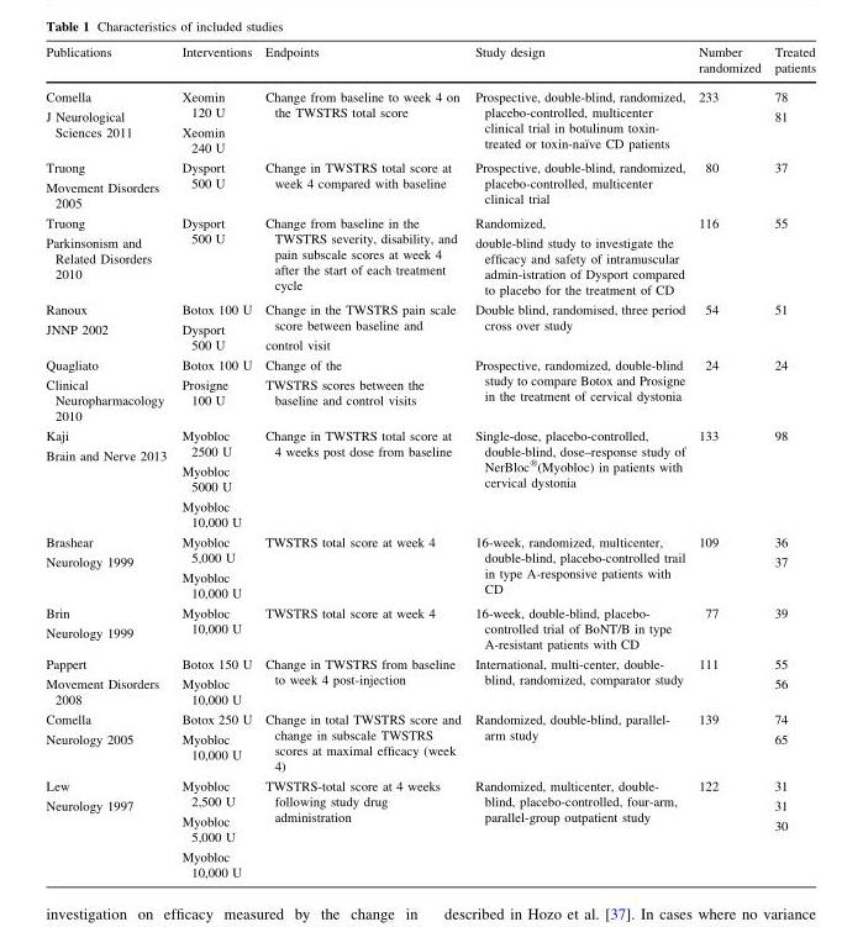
<table><thead><tr><td>Publications</td><td>Interventions</td><td>Endpoints</td><td>Study design</td><td>Number randomized</td><td>Treated patients</td></tr></thead><tbody><tr><td>Comella J Neurological Sciences 2011</td><td>Xeomin 120 U Xeomin 240 U</td><td>Change from baseline to week 4 on the TWSTRS total score</td><td>Prospective, double-blind, randomized, placebo-controlled, multicenter clinical trial in botulinum toxin- treated or toxin-naı¨ve CD patients</td><td>233</td><td>78 81</td></tr><tr><td>Truong Movement Disorders 2005</td><td>Dysport 500 U</td><td>Change in TWSTRS total score at week 4 compared with baseline</td><td>Prospective, double-blind, randomized, placebo-controlled, multicenter clinical trial</td><td>80</td><td>37</td></tr><tr><td>Truong Parkinsonism and Related Disorders 2010</td><td>Dysport 500 U</td><td>Change from baseline in the TWSTRS severity, disability, and pain subscale scores at week 4 after the start of each treatment cycle</td><td>Randomized, double-blind study to investigate the efficacy and safety of intramuscular admin-istration of Dysport compared to placebo for the treatment of CD</td><td>116</td><td>55</td></tr><tr><td>Ranoux JNNP 2002</td><td>Botox 100 U Dysport 500 U</td><td>Change in the TWSTRS pain scale score between baseline and control visit</td><td>Double blind, randomised, three period cross over study</td><td>54</td><td>51</td></tr><tr><td>Quagliato Clinical Neuropharmacology 2010</td><td>Botox 100 U Prosigne 100 U</td><td>Change of the TWSTRS scores between the baseline and control visits</td><td>Prospective, randomized, double-blind study to compare Botox and Prosigne in the treatment of cervical dystonia</td><td>24</td><td>24</td></tr><tr><td>Kaji Brain and Nerve 2013</td><td>Myobloc 2500 U Myobloc 5000 U Myobloc 10,000 U</td><td>Change in TWSTRS total score at 4 weeks post dose from baseline</td><td>Single-dose, placebo-controlled, double-blind, dose–response study of NerBloc<sup>®</sup>(Myobloc) in patients with cervical dystonia</td><td>133</td><td>98</td></tr><tr><td>Brashear Neurology 1999</td><td>Myobloc 5,000 U Myobloc 10,000 U</td><td>TWSTRS total score at week 4</td><td>16-week, randomized, multicenter, double-blind, placebo-controlled trail in type A-responsive patients with CD</td><td>109</td><td>36 37</td></tr><tr><td>Brin Neurology 1999</td><td>Myobloc 10,000 U</td><td>TWSTRS total score at week 4</td><td>16-week, double-blind, placebo- controlled trial of BoNT/B in type A-resistant patients with CD</td><td>77</td><td>39</td></tr><tr><td>Pappert Movement Disorders 2008</td><td>Botox 150 U Myobloc 10,000 U</td><td>Change in TWSTRS from baseline to week 4 post-injection</td><td>International, multi-center, double- blind, randomized, comparator study</td><td>111</td><td>55 56</td></tr><tr><td>Comella Neurology 2005</td><td>Botox 250 U Myobloc 10,000 U</td><td>Change in total TWSTRS score and change in subscale TWSTRS scores at maximal efficacy (week 4)</td><td>Randomized, double-blind, parallel- arm study</td><td>139</td><td>74 65</td></tr><tr><td>Lew Neurology 1997</td><td>Myobloc 2,500 U Myobloc 5,000 U Myobloc 10,000 U</td><td>TWSTRS-total score at 4 weeks following study drug administration</td><td>Randomized, multicenter, double- blind, placebo-controlled, four-arm, parallel-group outpatient study</td><td>122</td><td>31 31 30</td></tr></tbody></table>